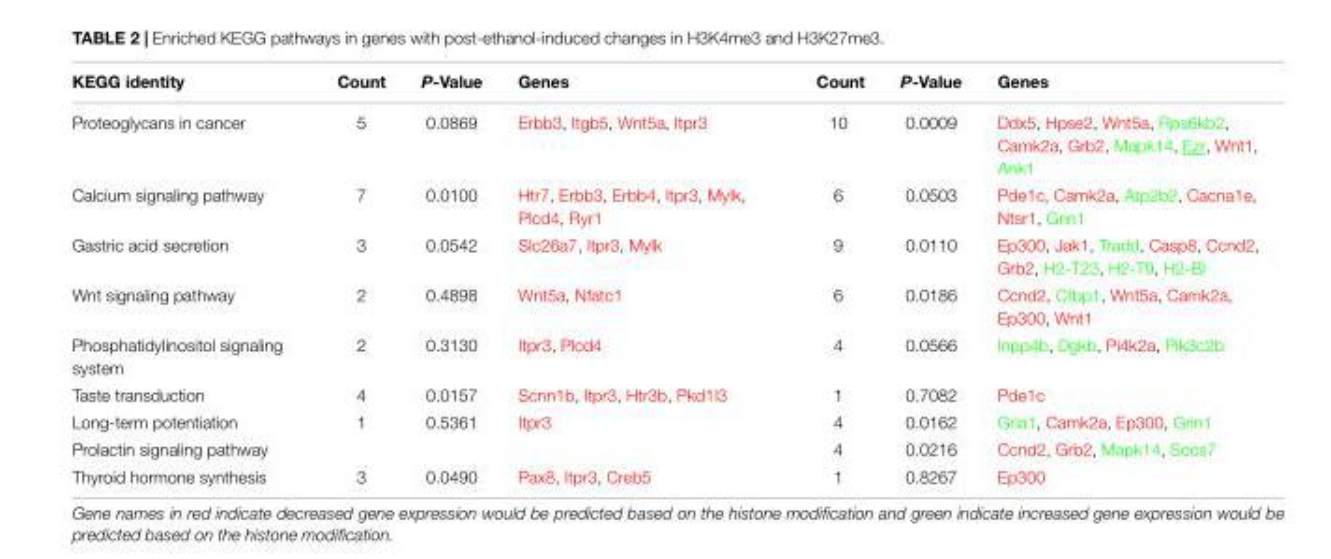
<table><thead><tr><td>KEGG identity</td><td>Count</td><td>P-Value</td><td>Genes</td><td>Count</td><td>P-Value</td><td>Genes</td></tr></thead><tbody><tr><td>Proteoglycans in cancer</td><td>5</td><td>0.0869</td><td>Erbb3, Itgb5, Wnt5a, Itpr3</td><td>10</td><td>0.0009</td><td>Ddx5, Hpse2, Wnt5a, Rps6kb2, Camk2a, Grb2, Mapk14, Ezr, Wnt1, Ank1</td></tr><tr><td>Calcium signaling pathway</td><td>7</td><td>0.0100</td><td>Htr7, Erbb3, Erbb4, Itpr3, Mylk, Plcd4, Ryr1</td><td>6</td><td>0.0503</td><td>Pde1c, Camk2a, Atp2b2, Cacna1e, Ntsr1, Grin1</td></tr><tr><td>Gastric acid secretion</td><td>3</td><td>0.0542</td><td>Slc26a7, Itpr3, Mylk</td><td>9</td><td>0.0110</td><td>Ep300, Jak1, Tradd, Casp8, Ccnd2, Grb2, H2-T23, H2-T9, H2-Bl</td></tr><tr><td>Wnt signaling pathway</td><td>2</td><td>0.4898</td><td>Wnt5a, Nfatc1</td><td>6</td><td>0.0186</td><td>Ccnd2, Ctbp1, Wnt5a, Camk2a, Ep300, Wnt1</td></tr><tr><td>Phosphatidylinositol signaling system</td><td>2</td><td>0.3130</td><td>Itpr3, Plcd4</td><td>4</td><td>0.0566</td><td>Inpp4b, Dgkb, Pi4k2a, Pik3c2b</td></tr><tr><td>Taste transduction</td><td>4</td><td>0.0157</td><td>Scnn1b, Itpr3, Htr3b, Pkd1l3</td><td>1</td><td>0.7082</td><td>Pde1c</td></tr><tr><td>Long-term potentiation</td><td>1</td><td>0.5361</td><td>Itpr3</td><td>4</td><td>0.0162</td><td>Gria1, Camk2a, Ep300, Grin1</td></tr><tr><td>Prolactin signaling pathway</td><td></td><td></td><td></td><td>4</td><td>0.0216</td><td>Ccnd2, Grb2, Mapk14, Socs7</td></tr><tr><td>Thyroid hormone synthesis</td><td>3</td><td>0.0490</td><td>Pax8, Itpr3, Creb5</td><td>1</td><td>0.8267</td><td>Ep300</td></tr></tbody></table>